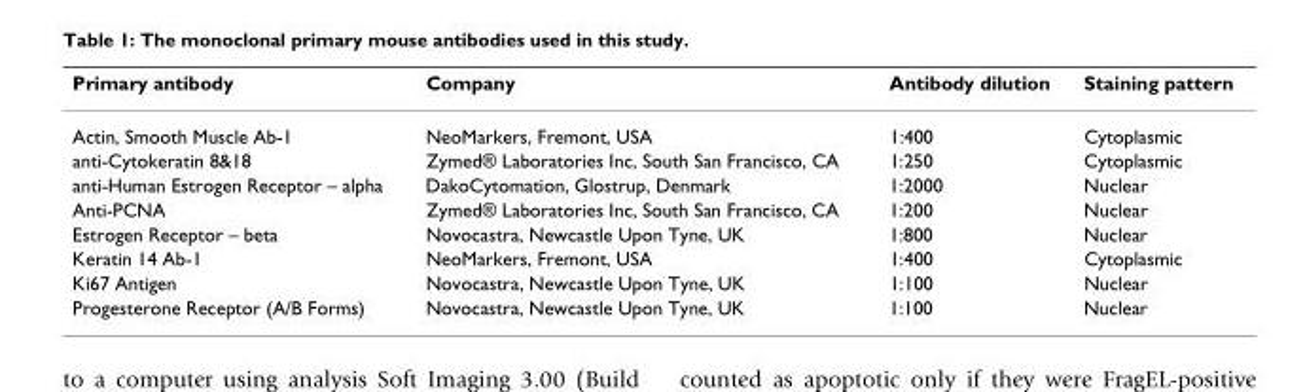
<table><thead><tr><td>Primary antibody</td><td>Company</td><td>Antibody dilution</td><td>Staining pattern</td></tr></thead><tbody><tr><td>Actin, Smooth Muscle Ab-1</td><td>NeoMarkers, Fremont, USA</td><td>1:400</td><td>Cytoplasmic</td></tr><tr><td>anti-Cytokeratin 8&amp;18</td><td>Zymed® Laboratories Inc, South San Francisco, CA</td><td>1:250</td><td>Cytoplasmic</td></tr><tr><td>anti-Human Estrogen Receptor – alpha</td><td>DakoCytomation, Glostrup, Denmark</td><td>1:2000</td><td>Nuclear</td></tr><tr><td>Anti-PCNA</td><td>Zymed® Laboratories Inc, South San Francisco, CA</td><td>1:200</td><td>Nuclear</td></tr><tr><td>Estrogen Receptor – beta</td><td>Novocastra, Newcastle Upon Tyne, UK</td><td>1:800</td><td>Nuclear</td></tr><tr><td>Keratin 14 Ab-1</td><td>NeoMarkers, Fremont, USA</td><td>1:400</td><td>Cytoplasmic</td></tr><tr><td>Ki67 Antigen</td><td>Novocastra, Newcastle Upon Tyne, UK</td><td>1:100</td><td>Nuclear</td></tr><tr><td>Progesterone Receptor (A/B Forms)</td><td>Novocastra, Newcastle Upon Tyne, UK</td><td>1:100</td><td>Nuclear</td></tr></tbody></table>